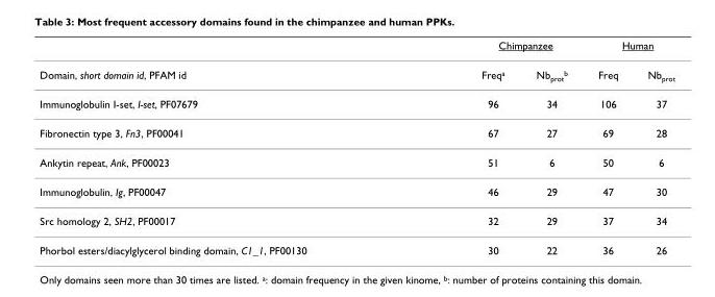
<table><thead><tr><td rowspan="2">Domain, short domain id, PFAM id</td><td colspan="2">Chimpanzee</td><td colspan="2">Human</td></tr><tr><td>Freq<sup>a</sup></td><td>Nb<sub>prot</sub><sup>b</sup></td><td>Freq</td><td>Nb<sub>prot</sub></td></tr></thead><tbody><tr><td>Immunoglobulin I-set, I-set, PF07679</td><td>96</td><td>34</td><td>106</td><td>37</td></tr><tr><td>Fibronectin type 3, Fn3, PF00041</td><td>67</td><td>27</td><td>69</td><td>28</td></tr><tr><td>Ankytin repeat, Ank, PF00023</td><td>51</td><td>6</td><td>50</td><td>6</td></tr><tr><td>Immunoglobulin, Ig, PF00047</td><td>46</td><td>29</td><td>47</td><td>30</td></tr><tr><td>Src homology 2, SH2, PF00017</td><td>32</td><td>29</td><td>37</td><td>34</td></tr><tr><td>Phorbol esters/diacylglycerol binding domain, C1_1, PF00130</td><td>30</td><td>22</td><td>36</td><td>26</td></tr></tbody></table>